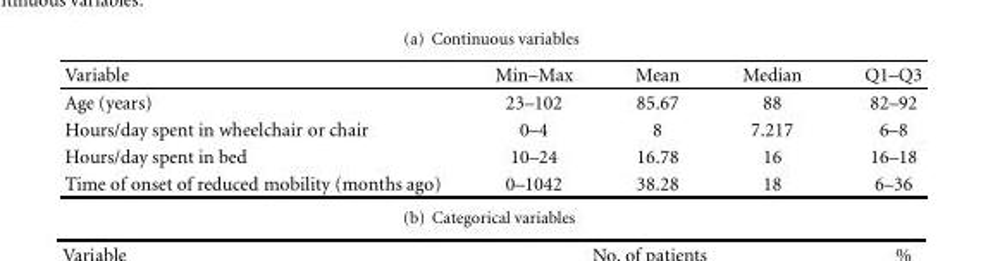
<table><thead><tr><td>Variable</td><td>Min–Max</td><td>Mean</td><td>Median</td><td>Q1–Q3</td></tr></thead><tbody><tr><td>Age (years)</td><td>23–102</td><td>85.67</td><td>88</td><td>82–92</td></tr><tr><td>Hours/day spent in wheelchair or chair</td><td>0–4</td><td>8</td><td>7.217</td><td>6–8</td></tr><tr><td>Hours/day spent in bed</td><td>10–24</td><td>16.78</td><td>16</td><td>16–18</td></tr><tr><td>Time of onset of reduced mobility (months ago)</td><td>0–1042</td><td>38.28</td><td>18</td><td>6–36</td></tr></tbody></table>